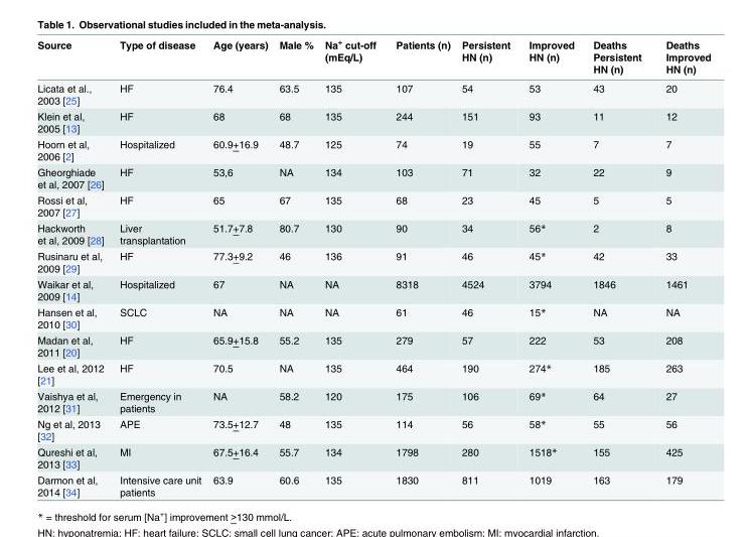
<table><thead><tr><td>Source</td><td>Type of disease</td><td>Age (years)</td><td>Male %</td><td>Na<sup>+</sup> cut-off (mEq/L)</td><td>Patients (n)</td><td>Persistent HN (n)</td><td>Improved HN (n)</td><td>Deaths Persistent HN (n)</td><td>Deaths Improved HN (n)</td></tr></thead><tbody><tr><td>Licata et al., 2003 [25]</td><td>HF</td><td>76.4</td><td>63.5</td><td>135</td><td>107</td><td>54</td><td>53</td><td>43</td><td>20</td></tr><tr><td>Klein et al, 2005 [13]</td><td>HF</td><td>68</td><td>68</td><td>135</td><td>244</td><td>151</td><td>93</td><td>11</td><td>12</td></tr><tr><td>Hoorn et al, 2006 [2]</td><td>Hospitalized</td><td>60.9+16.9</td><td>48.7</td><td>125</td><td>74</td><td>19</td><td>55</td><td>7</td><td>7</td></tr><tr><td>Gheorghiade et al, 2007 [26]</td><td>HF</td><td>53,6</td><td>NA</td><td>134</td><td>103</td><td>71</td><td>32</td><td>22</td><td>9</td></tr><tr><td>Rossi et al, 2007 [27]</td><td>HF</td><td>65</td><td>67</td><td>135</td><td>68</td><td>23</td><td>45</td><td>5</td><td>5</td></tr><tr><td>Hackworth et al, 2009 [28]</td><td>Liver transplantation</td><td>51.7+7.8</td><td>80.7</td><td>130</td><td>90</td><td>34</td><td>56*</td><td>2</td><td>8</td></tr><tr><td>Rusinaru et al, 2009 [29]</td><td>HF</td><td>77.3+9.2</td><td>46</td><td>136</td><td>91</td><td>46</td><td>45*</td><td>42</td><td>33</td></tr><tr><td>Waikar et al, 2009 [14]</td><td>Hospitalized</td><td>67</td><td>NA</td><td>NA</td><td>8318</td><td>4524</td><td>3794</td><td>1846</td><td>1461</td></tr><tr><td>Hansen et al, 2010 [30]</td><td>SCLC</td><td>NA</td><td>NA</td><td>NA</td><td>61</td><td>46</td><td>15*</td><td>NA</td><td>NA</td></tr><tr><td>Madan et al, 2011 [20]</td><td>HF</td><td>65.9+15.8</td><td>55.2</td><td>135</td><td>279</td><td>57</td><td>222</td><td>53</td><td>208</td></tr><tr><td>Lee et al, 2012 [21]</td><td>HF</td><td>70.5</td><td>NA</td><td>135</td><td>464</td><td>190</td><td>274*</td><td>185</td><td>263</td></tr><tr><td>Vaishya et al, 2012 [31]</td><td>Emergency in patients</td><td>NA</td><td>58.2</td><td>120</td><td>175</td><td>106</td><td>69*</td><td>64</td><td>27</td></tr><tr><td>Ng et al, 2013 [32]</td><td>APE</td><td>73.5+12.7</td><td>48</td><td>135</td><td>114</td><td>56</td><td>58*</td><td>55</td><td>56</td></tr><tr><td>Qureshi et al, 2013 [33]</td><td>MI</td><td>67.5+16.4</td><td>55.7</td><td>134</td><td>1798</td><td>280</td><td>1518*</td><td>155</td><td>425</td></tr><tr><td>Darmon et al, 2014 [34]</td><td>Intensive care unit patients</td><td>63.9</td><td>60.6</td><td>135</td><td>1830</td><td>811</td><td>1019</td><td>163</td><td>179</td></tr></tbody></table>